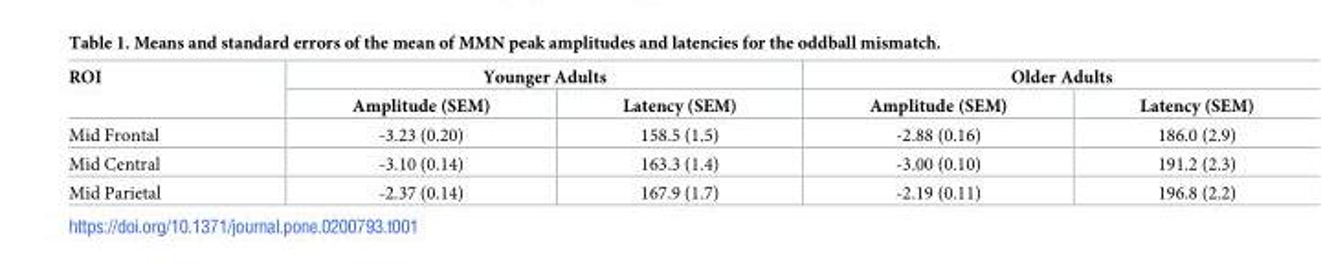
<table><thead><tr><td rowspan="2">ROI</td><td colspan="2">Younger Adults</td><td colspan="2">Older Adults</td></tr><tr><td>Amplitude (SEM)</td><td>Latency (SEM)</td><td>Amplitude (SEM)</td><td>Latency (SEM)</td></tr></thead><tbody><tr><td>Mid Frontal</td><td>-3.23 (0.20)</td><td>158.5 (1.5)</td><td>-2.88 (0.16)</td><td>186.0 (2.9)</td></tr><tr><td>Mid Central</td><td>-3.10 (0.14)</td><td>163.3 (1.4)</td><td>-3.00 (0.10)</td><td>191.2 (2.3)</td></tr><tr><td>Mid Parietal</td><td>-2.37 (0.14)</td><td>167.9 (1.7)</td><td>-2.19 (0.11)</td><td>196.8 (2.2)</td></tr></tbody></table>